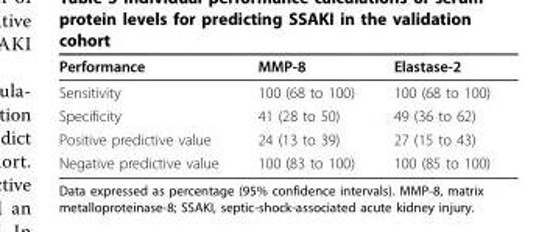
<table><thead><tr><td>Performance</td><td>MMP-8</td><td>Elastase-2</td></tr></thead><tbody><tr><td>Sensitivity</td><td>100 (68 to 100)</td><td>100 (68 to 100)</td></tr><tr><td>Specificity</td><td>41 (28 to 50)</td><td>49 (36 to 62)</td></tr><tr><td>Positive predictive value</td><td>24 (13 to 39)</td><td>27 (15 to 43)</td></tr><tr><td>Negative predictive value</td><td>100 (83 to 100)</td><td>100 (85 to 100)</td></tr></tbody></table>